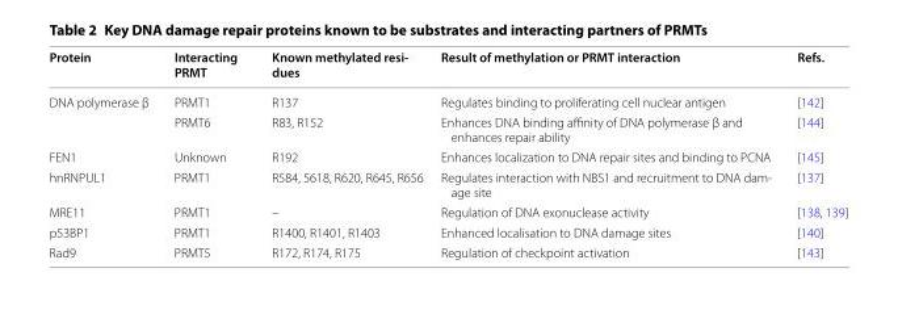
<table><thead><tr><td>Protein</td><td>Interacting PRMT</td><td>Known methylated resi- dues</td><td>Result of methylation or PRMT interaction</td><td>Refs.</td></tr></thead><tbody><tr><td rowspan="2">DNA polymerase β</td><td>PRMT1</td><td>R137</td><td>Regulates binding to proliferating cell nuclear antigen</td><td>[142]</td></tr><tr><td>PRMT6</td><td>R83, R152</td><td>Enhances DNA binding affinity of DNA polymerase β and enhances repair ability</td><td>[144]</td></tr><tr><td>FEN1</td><td>Unknown</td><td>R192</td><td>Enhances localization to DNA repair sites and binding to PCNA</td><td>[145]</td></tr><tr><td>hnRNPUL1</td><td>PRMT1</td><td>R584, 5618, R620, R645, R656</td><td>Regulates interaction with NBS1 and recruitment to DNA dam- age site</td><td>[137]</td></tr><tr><td>MRE11</td><td>PRMT1</td><td>–</td><td>Regulation of DNA exonuclease activity</td><td>[138, 139]</td></tr><tr><td>p53BP1</td><td>PRMT1</td><td>R1400, R1401, R1403</td><td>Enhanced localisation to DNA damage sites</td><td>[140]</td></tr><tr><td>Rad9</td><td>PRMT5</td><td>R172, R174, R175</td><td>Regulation of checkpoint activation</td><td>[143]</td></tr></tbody></table>